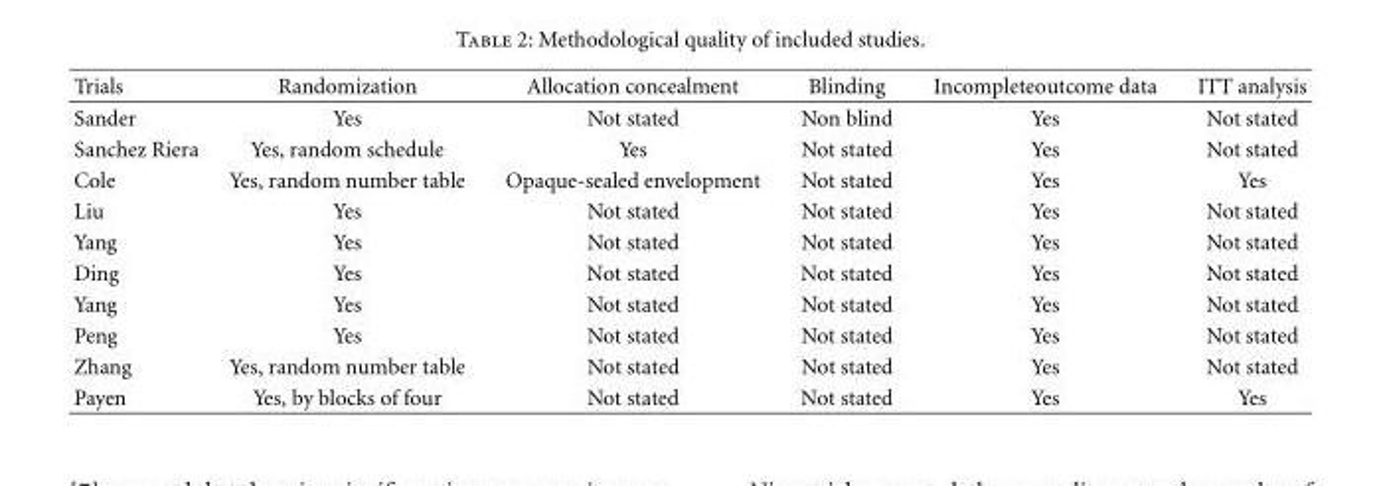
<table><thead><tr><td>Trials</td><td>Randomization</td><td>Allocation concealment</td><td>Blinding</td><td>Incompleteoutcome data</td><td>ITT analysis</td></tr></thead><tbody><tr><td>Sander</td><td>Yes</td><td>Not stated</td><td>Non blind</td><td>Yes</td><td>Not stated</td></tr><tr><td>Sanchez Riera</td><td>Yes, random schedule</td><td>Yes</td><td>Not stated</td><td>Yes</td><td>Not stated</td></tr><tr><td>Cole</td><td>Yes, random number table</td><td>Opaque-sealed envelopment</td><td>Not stated</td><td>Yes</td><td>Yes</td></tr><tr><td>Liu</td><td>Yes</td><td>Not stated</td><td>Not stated</td><td>Yes</td><td>Not stated</td></tr><tr><td>Yang</td><td>Yes</td><td>Not stated</td><td>Not stated</td><td>Yes</td><td>Not stated</td></tr><tr><td>Ding</td><td>Yes</td><td>Not stated</td><td>Not stated</td><td>Yes</td><td>Not stated</td></tr><tr><td>Yang</td><td>Yes</td><td>Not stated</td><td>Not stated</td><td>Yes</td><td>Not stated</td></tr><tr><td>Peng</td><td>Yes</td><td>Not stated</td><td>Not stated</td><td>Yes</td><td>Not stated</td></tr><tr><td>Zhang</td><td>Yes, random number table</td><td>Not stated</td><td>Not stated</td><td>Yes</td><td>Not stated</td></tr><tr><td>Payen</td><td>Yes, by blocks of four</td><td>Not stated</td><td>Not stated</td><td>Yes</td><td>Yes</td></tr></tbody></table>